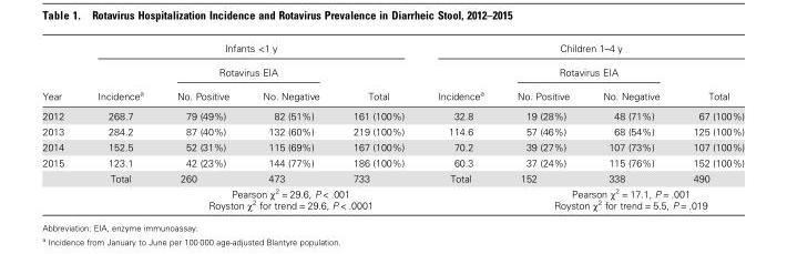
<table><thead><tr><td rowspan="3">Year</td><td colspan="4">Infants &lt;1 y</td><td colspan="4">Children 1–4 y</td></tr><tr><td rowspan="2">Incidence<sup>a</sup></td><td colspan="2">Rotavirus EIA</td><td rowspan="2">Total</td><td rowspan="2">Incidence<sup>a</sup></td><td colspan="2">Rotavirus EIA</td><td rowspan="2">Total</td></tr><tr><td>No. Positive</td><td>No. Negative</td><td>No. Positive</td><td>No. Negative</td></tr></thead><tbody><tr><td>2012</td><td>268.7</td><td>79 (49%)</td><td>82 (51%)</td><td>161 (100%)</td><td>32.8</td><td>19 (28%)</td><td>48 (71%)</td><td>67 (100%)</td></tr><tr><td>2013</td><td>284.2</td><td>87 (40%)</td><td>132 (60%)</td><td>219 (100%)</td><td>114.6</td><td>57 (46%)</td><td>68 (54%)</td><td>125 (100%)</td></tr><tr><td>2014</td><td>152.5</td><td>52 (31%)</td><td>115 (69%)</td><td>167 (100%)</td><td>70.2</td><td>39 (27%)</td><td>107 (73%)</td><td>107 (100%)</td></tr><tr><td rowspan="3">2015</td><td>123.1</td><td>42 (23%)</td><td>144 (77%)</td><td>186 (100%)</td><td>60.3</td><td>37 (24%)</td><td>115 (76%)</td><td>152 (100%)</td></tr><tr><td>Total</td><td>260</td><td>473</td><td>733</td><td>Total</td><td>152</td><td>338</td><td>490</td></tr><tr><td></td><td colspan="3">Pearson χ<sup>2</sup> = 29.6, P &lt; .001 Royston χ<sup>2</sup> for trend = 29.6, P &lt; .0001</td><td></td><td colspan="3">Pearson χ<sup>2</sup> = 17.1, P = .001 Royston χ<sup>2</sup> for trend = 5.5, P = .019</td></tr></tbody></table>